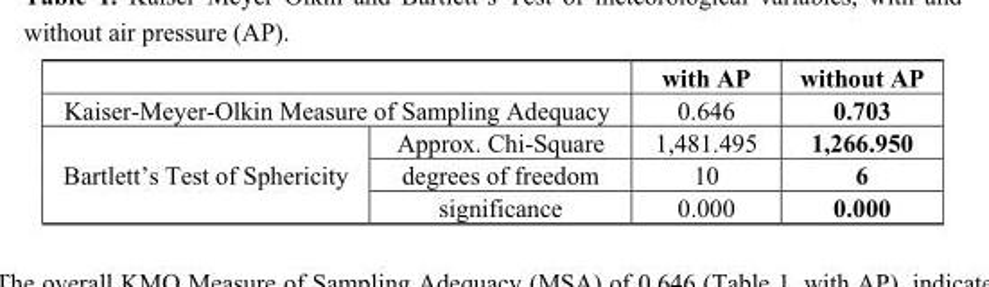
<table><thead><tr><td></td><td></td><td>with AP</td><td>without AP</td></tr></thead><tbody><tr><td colspan="2">Kaiser-Meyer-Olkin Measure of Sampling Adequacy</td><td>0.646</td><td>0.703</td></tr><tr><td rowspan="3">Bartlett’s Test of Sphericity</td><td>Approx. Chi-Square</td><td>1,481.495</td><td>1,266.950</td></tr><tr><td>degrees of freedom</td><td>10</td><td>6</td></tr><tr><td>significance</td><td>0.000</td><td>0.000</td></tr></tbody></table>